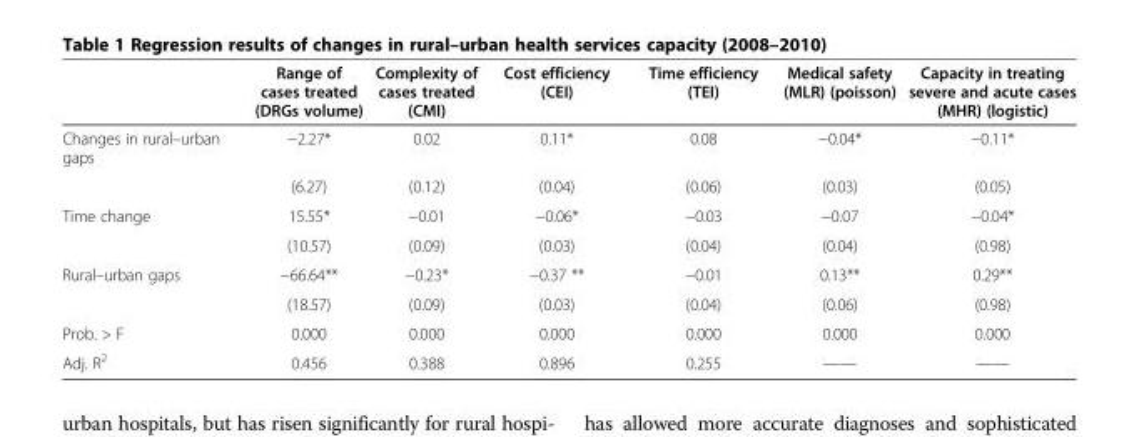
<table><thead><tr><td></td><td>Range of cases treated (DRGs volume)</td><td>Complexity of cases treated (CMI)</td><td>Cost efficiency (CEI)</td><td>Time efficiency (TEI)</td><td>Medical safety (MLR) (poisson)</td><td>Capacity in treating severe and acute cases (MHR) (logistic)</td></tr></thead><tbody><tr><td rowspan="2">Changes in rural–urban gaps</td><td>−2.27*</td><td>0.02</td><td>0.11*</td><td>0.08</td><td>−0.04*</td><td>−0.11*</td></tr><tr><td>(6.27)</td><td>(0.12)</td><td>(0.04)</td><td>(0.06)</td><td>(0.03)</td><td>(0.05)</td></tr><tr><td rowspan="2">Time change</td><td>15.55*</td><td>−0.01</td><td>−0.06*</td><td>−0.03</td><td>−0.07</td><td>−0.04*</td></tr><tr><td>(10.57)</td><td>(0.09)</td><td>(0.03)</td><td>(0.04)</td><td>(0.04)</td><td>(0.98)</td></tr><tr><td rowspan="2">Rural–urban gaps</td><td>−66.64**</td><td>−0.23*</td><td>−0.37 **</td><td>−0.01</td><td>0.13**</td><td>0.29**</td></tr><tr><td>(18.57)</td><td>(0.09)</td><td>(0.03)</td><td>(0.04)</td><td>(0.06)</td><td>(0.98)</td></tr><tr><td>Prob. &gt; F</td><td>0.000</td><td>0.000</td><td>0.000</td><td>0.000</td><td>0.000</td><td>0.000</td></tr><tr><td>Adj. R<sup>2</sup></td><td>0.456</td><td>0.388</td><td>0.896</td><td>0.255</td><td>——</td><td>——</td></tr></tbody></table>